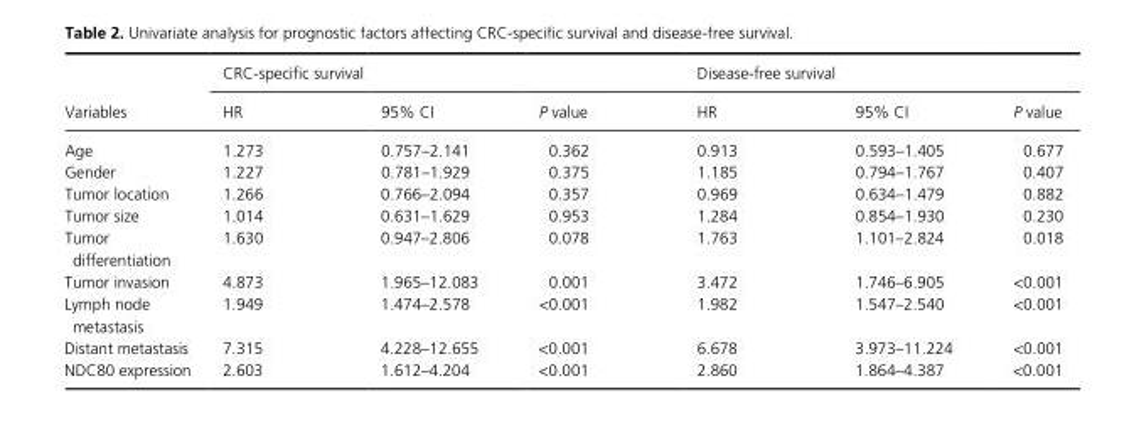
<table><thead><tr><td rowspan="2">Variables</td><td colspan="3">CRC- specific survival</td><td colspan="3">Disease- free survival</td></tr><tr><td>HR</td><td>95% CI</td><td>P value</td><td>HR</td><td>95% CI</td><td>P value</td></tr></thead><tbody><tr><td>Age</td><td>1.273</td><td>0.757–2.141</td><td>0.362</td><td>0.913</td><td>0.593–1.405</td><td>0.677</td></tr><tr><td>Gender</td><td>1.227</td><td>0.781–1.929</td><td>0.375</td><td>1.185</td><td>0.794–1.767</td><td>0.407</td></tr><tr><td>Tumor location</td><td>1.266</td><td>0.766–2.094</td><td>0.357</td><td>0.969</td><td>0.634–1.479</td><td>0.882</td></tr><tr><td>Tumor size</td><td>1.014</td><td>0.631–1.629</td><td>0.953</td><td>1.284</td><td>0.854–1.930</td><td>0.230</td></tr><tr><td>Tumor differentiation</td><td>1.630</td><td>0.947–2.806</td><td>0.078</td><td>1.763</td><td>1.101–2.824</td><td>0.018</td></tr><tr><td>Tumor invasion</td><td>4.873</td><td>1.965–12.083</td><td>0.001</td><td>3.472</td><td>1.746–6.905</td><td>&lt;0.001</td></tr><tr><td>Lymph node metastasis</td><td>1.949</td><td>1.474–2.578</td><td>&lt;0.001</td><td>1.982</td><td>1.547–2.540</td><td>&lt;0.001</td></tr><tr><td>Distant metastasis</td><td>7.315</td><td>4.228–12.655</td><td>&lt;0.001</td><td>6.678</td><td>3.973–11.224</td><td>&lt;0.001</td></tr><tr><td>NDC80 expression</td><td>2.603</td><td>1.612–4.204</td><td>&lt;0.001</td><td>2.860</td><td>1.864–4.387</td><td>&lt;0.001</td></tr></tbody></table>